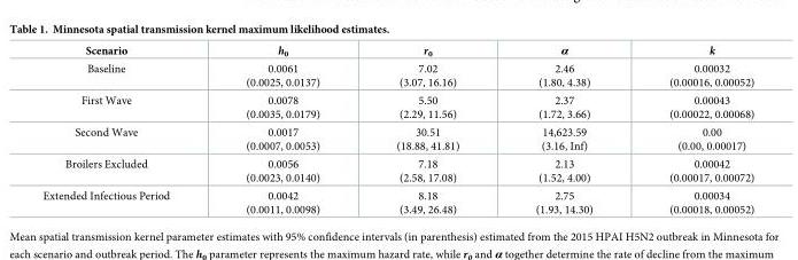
<table><thead><tr><td>Scenario</td><td>h<sub>0</sub></td><td>r<sub>0</sub></td><td>α</td><td>k</td></tr></thead><tbody><tr><td>Baseline</td><td>0.0061 (0.0025, 0.0137)</td><td>7.02 (3.07, 16.16)</td><td>2.46 (1.80, 4.38)</td><td>0.00032 (0.00016, 0.00052)</td></tr><tr><td>First Wave</td><td>0.0078 (0.0035, 0.0179)</td><td>5.50 (2.29, 11.56)</td><td>2.37 (1.72, 3.66)</td><td>0.00043 (0.00022, 0.00068)</td></tr><tr><td>Second Wave</td><td>0.0017 (0.0007, 0.0053)</td><td>30.51 (18.88, 41.81)</td><td>14,623.59 (3.16, Inf)</td><td>0.00 (0.00, 0.00017)</td></tr><tr><td>Broilers Excluded</td><td>0.0056 (0.0023, 0.0140)</td><td>7.18 (2.58, 17.08)</td><td>2.13 (1.52, 4.00)</td><td>0.00042 (0.00017, 0.00072)</td></tr><tr><td>Extended Infectious Period</td><td>0.0042 (0.0011, 0.0098)</td><td>8.18 (3.49, 26.48)</td><td>2.75 (1.93, 14.30)</td><td>0.00034 (0.00018, 0.00052)</td></tr></tbody></table>